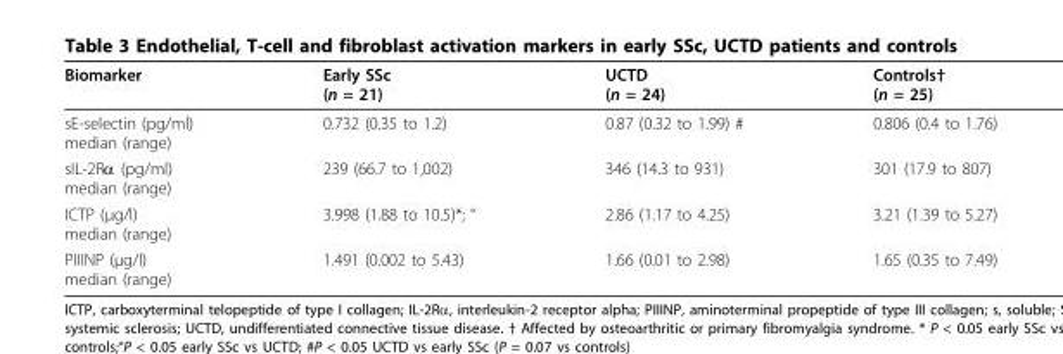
<table><thead><tr><td>Biomarker</td><td>Early SSc (n = 21)</td><td>UCTD (n = 24)</td><td>Controls† (n = 25)</td></tr></thead><tbody><tr><td>sE-selectin (pg/ml) median (range)</td><td>0.732 (0.35 to 1.2)</td><td>0.87 (0.32 to 1.99) #</td><td>0.806 (0.4 to 1.76)</td></tr><tr><td>sIL-2Rα (pg/ml) median (range)</td><td>239 (66.7 to 1,002)</td><td>346 (14.3 to 931)</td><td>301 (17.9 to 807)</td></tr><tr><td>ICTP (μg/l) median (range)</td><td>3.998 (1.88 to 10.5)*; °</td><td>2.86 (1.17 to 4.25)</td><td>3.21 (1.39 to 5.27)</td></tr><tr><td>PIIINP (μg/l) median (range)</td><td>1.491 (0.002 to 5.43)</td><td>1.66 (0.01 to 2.98)</td><td>1.65 (0.35 to 7.49)</td></tr></tbody></table>